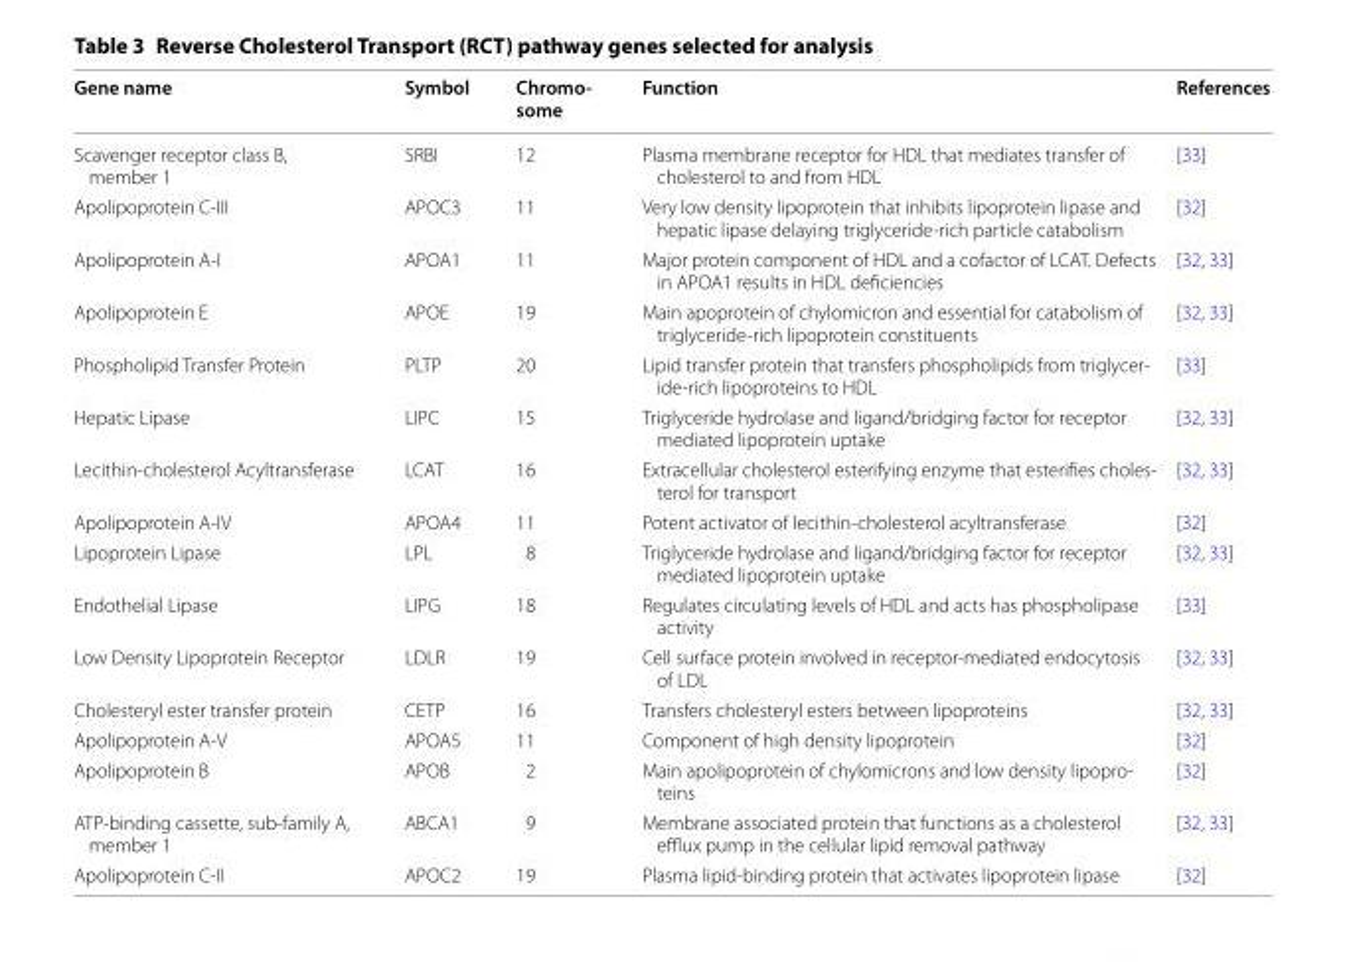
<table><thead><tr><td>Gene name</td><td>Symbol</td><td>Chromo- some</td><td>Function</td><td>References</td></tr></thead><tbody><tr><td>Scavenger receptor class B, member 1</td><td>SRBI</td><td>12</td><td>Plasma membrane receptor for HDL that mediates transfer of cholesterol to and from HDL</td><td>[33]</td></tr><tr><td>Apolipoprotein C-III</td><td>APOC3</td><td>11</td><td>Very low density lipoprotein that inhibits lipoprotein lipase and hepatic lipase delaying triglyceride-rich particle catabolism</td><td>[32]</td></tr><tr><td>Apolipoprotein A-I</td><td>APOA1</td><td>11</td><td>Major protein component of HDL and a cofactor of LCAT. Defects in APOA1 results in HDL deficiencies</td><td>[32, 33]</td></tr><tr><td>Apolipoprotein E</td><td>APOE</td><td>19</td><td>Main apoprotein of chylomicron and essential for catabolism of triglyceride-rich lipoprotein constituents</td><td>[32, 33]</td></tr><tr><td>Phospholipid Transfer Protein</td><td>PLTP</td><td>20</td><td>Lipid transfer protein that transfers phospholipids from triglycer- ide-rich lipoproteins to HDL</td><td>[33]</td></tr><tr><td>Hepatic Lipase</td><td>LIPC</td><td>15</td><td>Triglyceride hydrolase and ligand/bridging factor for receptor mediated lipoprotein uptake</td><td>[32, 33]</td></tr><tr><td>Lecithin-cholesterol Acyltransferase</td><td>LCAT</td><td>16</td><td>Extracellular cholesterol esterifying enzyme that esterifies choles- terol for transport</td><td>[32, 33]</td></tr><tr><td>Apolipoprotein A-IV</td><td>APOA4</td><td>11</td><td>Potent activator of lecithin-cholesterol acyltransferase</td><td>[32]</td></tr><tr><td>Lipoprotein Lipase</td><td>LPL</td><td>8</td><td>Triglyceride hydrolase and ligand/bridging factor for receptor mediated lipoprotein uptake</td><td>[32, 33]</td></tr><tr><td>Endothelial Lipase</td><td>LIPG</td><td>18</td><td>Regulates circulating levels of HDL and acts has phospholipase activity</td><td>[33]</td></tr><tr><td>Low Density Lipoprotein Receptor</td><td>LDLR</td><td>19</td><td>Cell surface protein involved in receptor-mediated endocytosis of LDL</td><td>[32, 33]</td></tr><tr><td>Cholesteryl ester transfer protein</td><td>CETP</td><td>16</td><td>Transfers cholesteryl esters between lipoproteins</td><td>[32, 33]</td></tr><tr><td>Apolipoprotein A-V</td><td>APOA5</td><td>11</td><td>Component of high density lipoprotein</td><td>[32]</td></tr><tr><td>Apolipoprotein B</td><td>APOB</td><td>2</td><td>Main apolipoprotein of chylomicrons and low density lipopro- teins</td><td>[32]</td></tr><tr><td>ATP-binding cassette, sub-family A, member 1</td><td>ABCA1</td><td>9</td><td>Membrane associated protein that functions as a cholesterol efflux pump in the cellular lipid removal pathway</td><td>[32, 33]</td></tr><tr><td>Apolipoprotein C-II</td><td>APOC2</td><td>19</td><td>Plasma lipid-binding protein that activates lipoprotein lipase</td><td>[32]</td></tr></tbody></table>